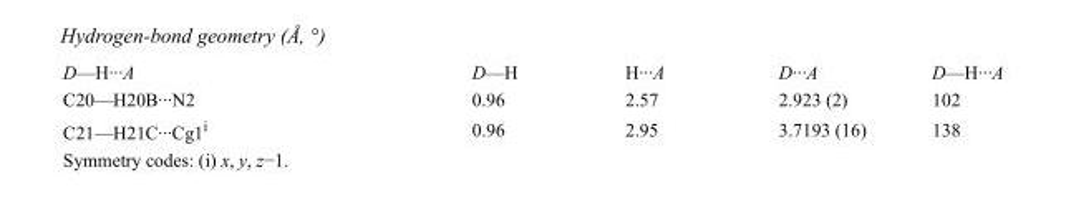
<table><tbody><tr><td>D—H···A</td><td>D—H</td><td>H···A</td><td>D···A</td><td>D—H···A</td></tr><tr><td>C20—H20B···N2</td><td>0.96</td><td>2.57</td><td>2.923 (2)</td><td>102</td></tr><tr><td>C21—H21C···Cg1<sup>i</sup></td><td>0.96</td><td>2.95</td><td>3.7193 (16)</td><td>138</td></tr></tbody></table>